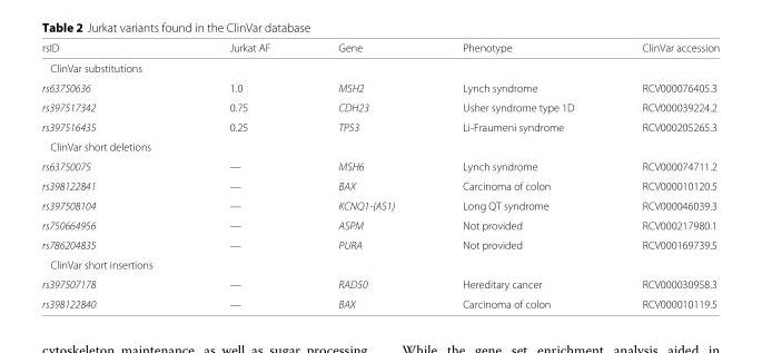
<table><thead><tr><td>rsID</td><td>Jurkat AF</td><td>Gene</td><td>Phenotype</td><td>ClinVar accession</td></tr></thead><tbody><tr><td colspan="5">ClinVar substitutions</td></tr><tr><td>rs63750636</td><td>1.0</td><td>MSH2</td><td>Lynch syndrome</td><td>RCV000076405.3</td></tr><tr><td>rs397517342</td><td>0.75</td><td>CDH23</td><td>Usher syndrome type 1D</td><td>RCV000039224.2</td></tr><tr><td>rs397516435</td><td>0.25</td><td>TP53</td><td>Li-Fraumeni syndrome</td><td>RCV000205265.3</td></tr><tr><td colspan="5">ClinVar short deletions</td></tr><tr><td>rs63750075</td><td>—</td><td>MSH6</td><td>Lynch syndrome</td><td>RCV000074711.2</td></tr><tr><td>rs398122841</td><td>—</td><td>BAX</td><td>Carcinoma of colon</td><td>RCV000010120.5</td></tr><tr><td>rs397508104</td><td>—</td><td>KCNQ1-(AS1)</td><td>Long QT syndrome</td><td>RCV000046039.3</td></tr><tr><td>rs750664956</td><td>—</td><td>ASPM</td><td>Not provided</td><td>RCV000217980.1</td></tr><tr><td>rs786204835</td><td>—</td><td>PURA</td><td>Not provided</td><td>RCV000169739.5</td></tr><tr><td colspan="5">ClinVar short insertions</td></tr><tr><td>rs397507178</td><td>—</td><td>RAD50</td><td>Hereditary cancer</td><td>RCV000030958.3</td></tr><tr><td>rs398122840</td><td>—</td><td>BAX</td><td>Carcinoma of colon</td><td>RCV000010119.5</td></tr></tbody></table>